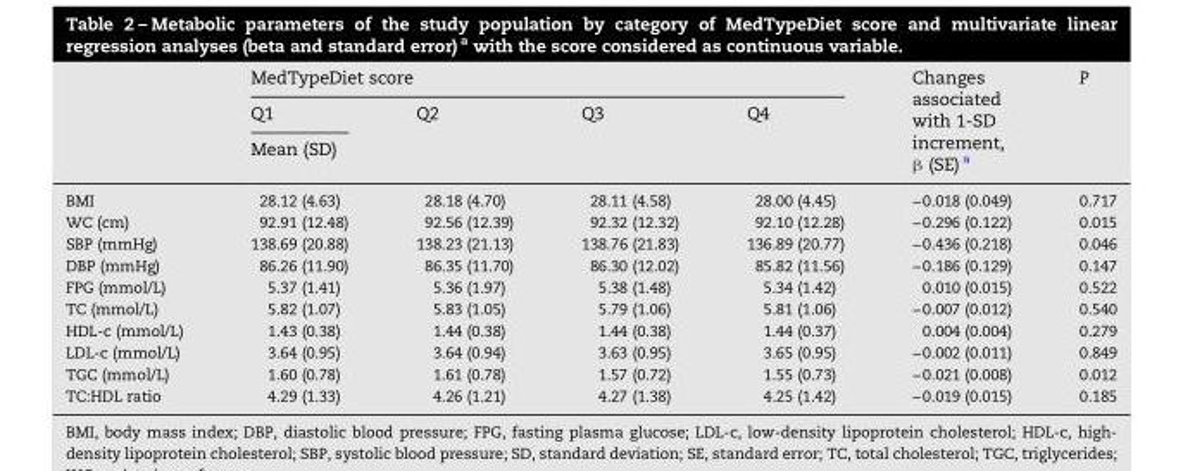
<table><thead><tr><td rowspan="3"></td><td colspan="4">MedTypeDiet score</td><td rowspan="3">Changes associated with 1-SD increment, β (SE) <sup>a</sup></td><td rowspan="3">P</td></tr><tr><td>Q1</td><td>Q2</td><td>Q3</td><td>Q4</td></tr><tr><td colspan="4">Mean (SD)</td></tr></thead><tbody><tr><td>BMI</td><td>28.12 (4.63)</td><td>28.18 (4.70)</td><td>28.11 (4.58)</td><td>28.00 (4.45)</td><td>−0.018 (0.049)</td><td>0.717</td></tr><tr><td>WC (cm)</td><td>92.91 (12.48)</td><td>92.56 (12.39)</td><td>92.32 (12.32)</td><td>92.10 (12.28)</td><td>−0.296 (0.122)</td><td>0.015</td></tr><tr><td>SBP (mmHg)</td><td>138.69 (20.88)</td><td>138.23 (21.13)</td><td>138.76 (21.83)</td><td>136.89 (20.77)</td><td>−0.436 (0.218)</td><td>0.046</td></tr><tr><td>DBP (mmHg)</td><td>86.26 (11.90)</td><td>86.35 (11.70)</td><td>86.30 (12.02)</td><td>85.82 (11.56)</td><td>−0.186 (0.129)</td><td>0.147</td></tr><tr><td>FPG (mmol/L)</td><td>5.37 (1.41)</td><td>5.36 (1.97)</td><td>5.38 (1.48)</td><td>5.34 (1.42)</td><td>0.010 (0.015)</td><td>0.522</td></tr><tr><td>TC (mmol/L)</td><td>5.82 (1.07)</td><td>5.83 (1.05)</td><td>5.79 (1.06)</td><td>5.81 (1.06)</td><td>−0.007 (0.012)</td><td>0.540</td></tr><tr><td>HDL-c (mmol/L)</td><td>1.43 (0.38)</td><td>1.44 (0.38)</td><td>1.44 (0.38)</td><td>1.44 (0.37)</td><td>0.004 (0.004)</td><td>0.279</td></tr><tr><td>LDL-c (mmol/L)</td><td>3.64 (0.95)</td><td>3.64 (0.94)</td><td>3.63 (0.95)</td><td>3.65 (0.95)</td><td>−0.002 (0.011)</td><td>0.849</td></tr><tr><td>TGC (mmol/L)</td><td>1.60 (0.78)</td><td>1.61 (0.78)</td><td>1.57 (0.72)</td><td>1.55 (0.73)</td><td>−0.021 (0.008)</td><td>0.012</td></tr><tr><td>TC:HDL ratio</td><td>4.29 (1.33)</td><td>4.26 (1.21)</td><td>4.27 (1.38)</td><td>4.25 (1.42)</td><td>−0.019 (0.015)</td><td>0.185</td></tr></tbody></table>